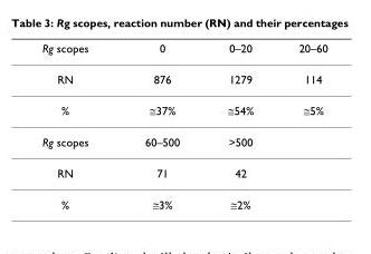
<table><thead><tr><td>Rg scopes</td><td>0</td><td>0–20</td><td>20–60</td></tr></thead><tbody><tr><td>RN</td><td>876</td><td>1279</td><td>114</td></tr><tr><td>%</td><td>≅37%</td><td>≅54%</td><td>≅5%</td></tr><tr><td>Rg scopes</td><td>60–500</td><td>&gt;500</td><td></td></tr><tr><td>RN</td><td>71</td><td>42</td><td></td></tr><tr><td>%</td><td>≅3%</td><td>≅2%</td><td></td></tr></tbody></table>